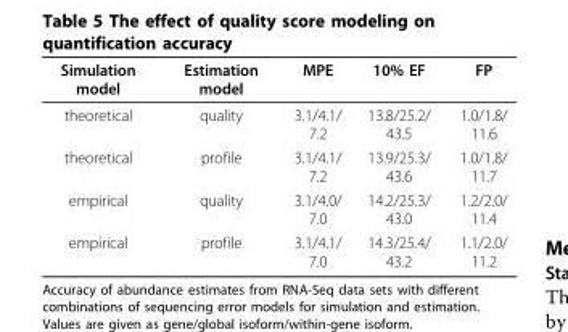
<table><thead><tr><td>Simulation model</td><td>Estimation model</td><td>MPE</td><td>10% EF</td><td>FP</td></tr></thead><tbody><tr><td>theoretical</td><td>quality</td><td>3.1/4.1/ 7.2</td><td>13.8/25.2/ 43.5</td><td>1.0/1.8/ 11.6</td></tr><tr><td>theoretical</td><td>profile</td><td>3.1/4.1/ 7.2</td><td>13.9/25.3/ 43.6</td><td>1.0/1.8/ 11.7</td></tr><tr><td>empirical</td><td>quality</td><td>3.1/4.0/ 7.0</td><td>14.2/25.3/ 43.0</td><td>1.2/2.0/ 11.4</td></tr><tr><td>empirical</td><td>profile</td><td>3.1/4.1/ 7.0</td><td>14.3/25.4/ 43.2</td><td>1.1/2.0/ 11.2</td></tr></tbody></table>